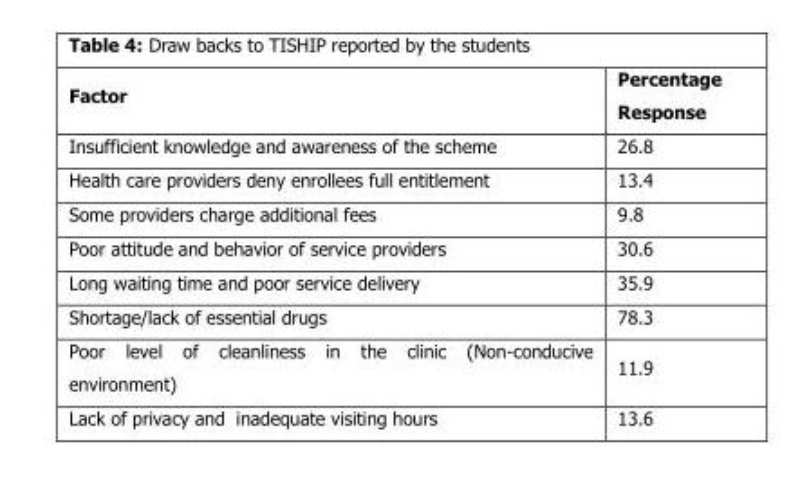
<table><thead><tr><td>Factor</td><td>Percentage Response</td></tr></thead><tbody><tr><td>Insufficient knowledge and awareness of the scheme</td><td>26.8</td></tr><tr><td>Health care providers deny enrollees full entitlement</td><td>13.4</td></tr><tr><td>Some providers charge additional fees</td><td>9.8</td></tr><tr><td>Poor attitude and behavior of service providers</td><td>30.6</td></tr><tr><td>Long waiting time and poor service delivery</td><td>35.9</td></tr><tr><td>Shortage/lack of essential drugs</td><td>78.3</td></tr><tr><td>Poor level of cleanliness in the clinic (Non-conducive environment)</td><td>11.9</td></tr><tr><td>Lack of privacy and inadequate visiting hours</td><td>13.6</td></tr></tbody></table>